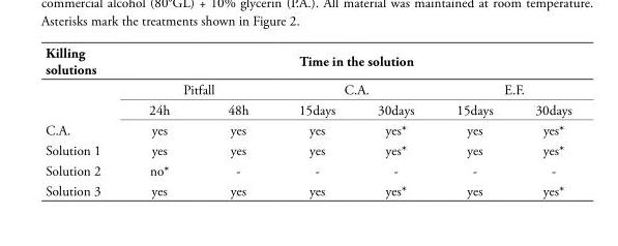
<table><thead><tr><td rowspan="3">Killing solutions</td><td colspan="6">Time in the solution</td></tr><tr><td colspan="2">Pitfall</td><td colspan="2">C.A.</td><td colspan="2">E.F.</td></tr><tr><td>24h</td><td>48h</td><td>15days</td><td>30days</td><td>15days</td><td>30days</td></tr></thead><tbody><tr><td>C.A.</td><td>yes</td><td>yes</td><td>yes</td><td>yes*</td><td>yes</td><td>yes*</td></tr><tr><td>Solution 1</td><td>yes</td><td>yes</td><td>yes</td><td>yes*</td><td>yes</td><td>yes*</td></tr><tr><td>Solution 2</td><td>no*</td><td>-</td><td>-</td><td>-</td><td>-</td><td>-</td></tr><tr><td>Solution 3</td><td>yes</td><td>yes</td><td>yes</td><td>yes*</td><td>yes</td><td>yes*</td></tr></tbody></table>